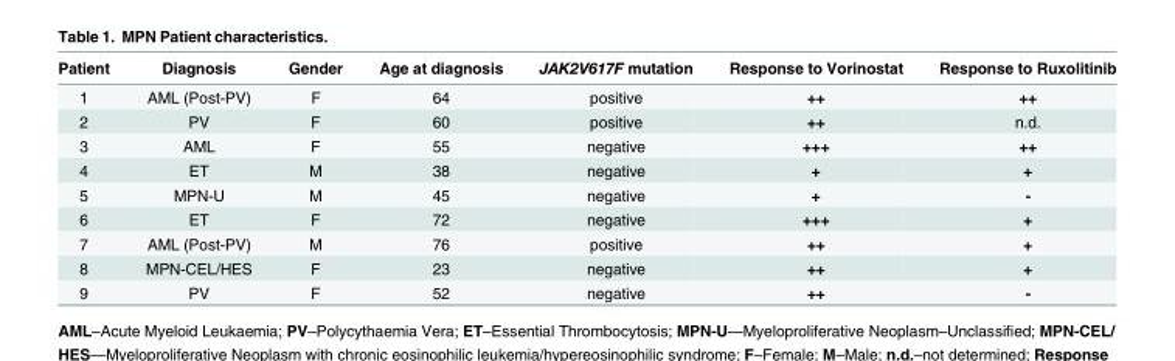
<table><thead><tr><td>Patient</td><td>Diagnosis</td><td>Gender</td><td>Age at diagnosis</td><td>JAK2V617F mutation</td><td>Response to Vorinostat</td><td>Response to Ruxolitinib</td></tr></thead><tbody><tr><td>1</td><td>AML (Post-PV)</td><td>F</td><td>64</td><td>positive</td><td>++</td><td>++</td></tr><tr><td>2</td><td>PV</td><td>F</td><td>60</td><td>positive</td><td>++</td><td>n.d.</td></tr><tr><td>3</td><td>AML</td><td>F</td><td>55</td><td>negative</td><td>+++</td><td>++</td></tr><tr><td>4</td><td>ET</td><td>M</td><td>38</td><td>negative</td><td>+</td><td>+</td></tr><tr><td>5</td><td>MPN-U</td><td>M</td><td>45</td><td>negative</td><td>+</td><td>-</td></tr><tr><td>6</td><td>ET</td><td>F</td><td>72</td><td>negative</td><td>+++</td><td>+</td></tr><tr><td>7</td><td>AML (Post-PV)</td><td>M</td><td>76</td><td>positive</td><td>++</td><td>+</td></tr><tr><td>8</td><td>MPN-CEL/HES</td><td>F</td><td>23</td><td>negative</td><td>++</td><td>+</td></tr><tr><td>9</td><td>PV</td><td>F</td><td>52</td><td>negative</td><td>++</td><td>-</td></tr></tbody></table>